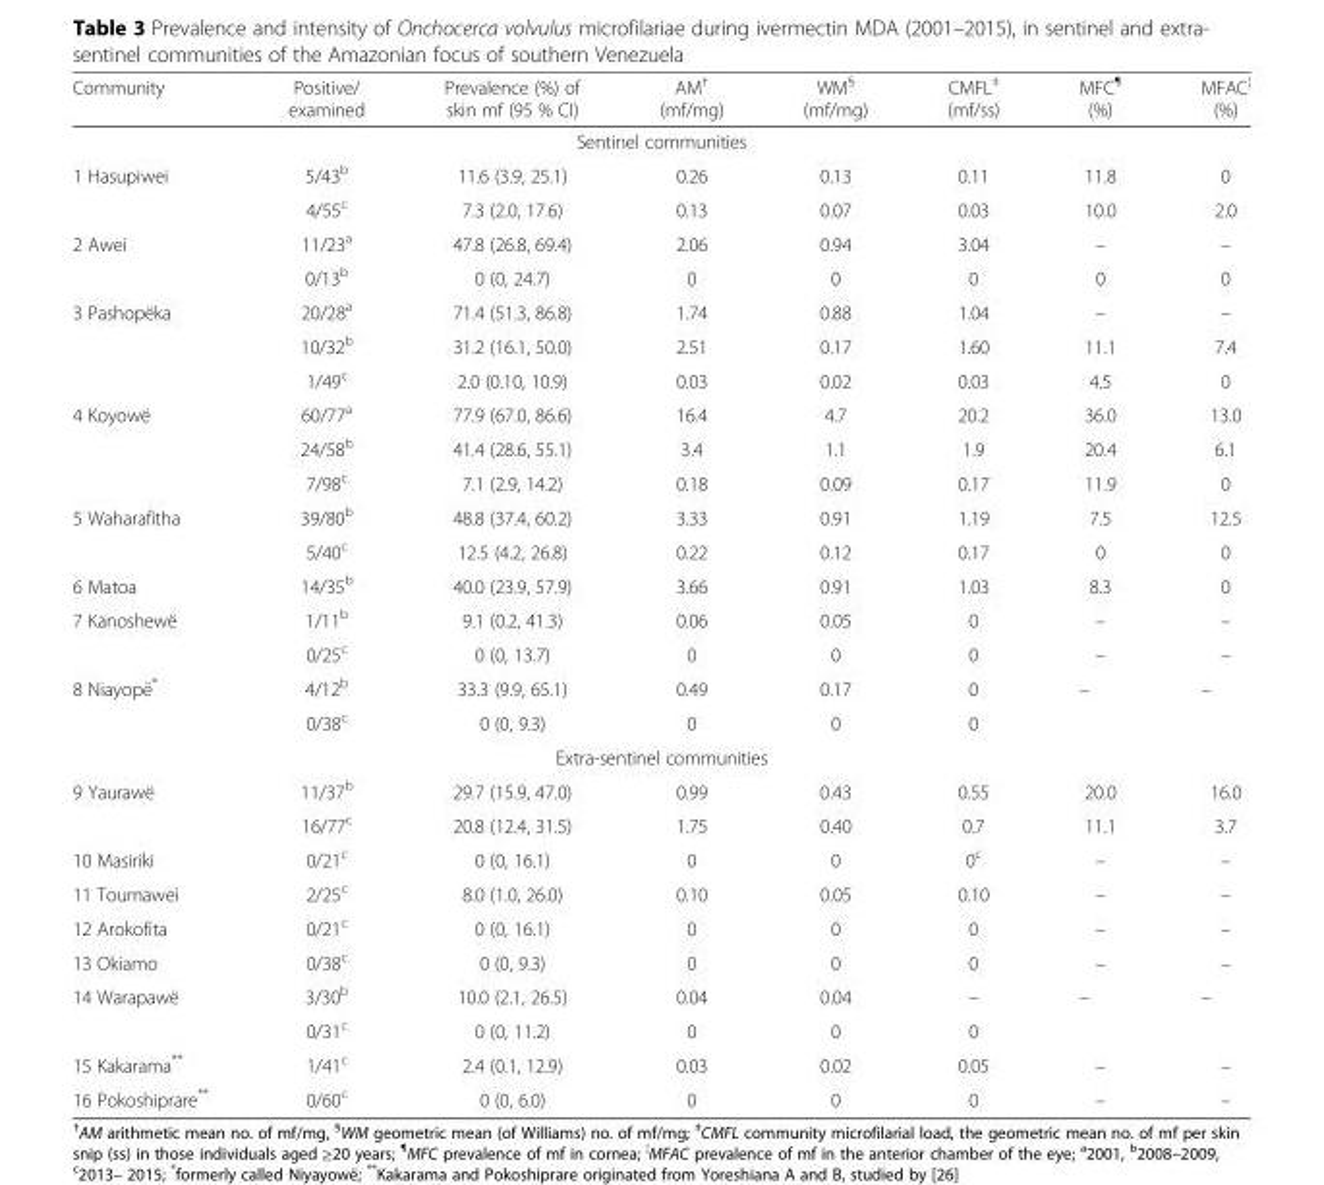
<table><thead><tr><td>Community</td><td>Positive/ examined</td><td>Prevalence (%) of skin mf (95 % CI)</td><td>AM<sup>†</sup> (mf/mg)</td><td>WM<sup>§</sup> (mf/mg)</td><td>CMFL<sup>‡</sup> (mf/ss)</td><td>MFC<sup>¶</sup> (%)</td><td>MFAC<sup>¦</sup> (%)</td></tr></thead><tbody><tr><td colspan="8">Sentinel communities</td></tr><tr><td rowspan="2">1 Hasupiwei</td><td>5/43<sup>b</sup></td><td>11.6 (3.9, 25.1)</td><td>0.26</td><td>0.13</td><td>0.11</td><td>11.8</td><td>0</td></tr><tr><td>4/55<sup>c</sup></td><td>7.3 (2.0, 17.6)</td><td>0.13</td><td>0.07</td><td>0.03</td><td>10.0</td><td>2.0</td></tr><tr><td rowspan="2">2 Awei</td><td>11/23<sup>a</sup></td><td>47.8 (26.8, 69.4)</td><td>2.06</td><td>0.94</td><td>3.04</td><td>–</td><td>–</td></tr><tr><td>0/13<sup>b</sup></td><td>0 (0, 24.7)</td><td>0</td><td>0</td><td>0</td><td>0</td><td>0</td></tr><tr><td rowspan="3">3 Pashopëka</td><td>20/28<sup>a</sup></td><td>71.4 (51.3, 86.8)</td><td>1.74</td><td>0.88</td><td>1.04</td><td>–</td><td>–</td></tr><tr><td>10/32<sup>b</sup></td><td>31.2 (16.1, 50.0)</td><td>2.51</td><td>0.17</td><td>1.60</td><td>11.1</td><td>7.4</td></tr><tr><td>1/49<sup>c</sup></td><td>2.0 (0.10, 10.9)</td><td>0.03</td><td>0.02</td><td>0.03</td><td>4.5</td><td>0</td></tr><tr><td rowspan="3">4 Koyowë</td><td>60/77<sup>a</sup></td><td>77.9 (67.0, 86.6)</td><td>16.4</td><td>4.7</td><td>20.2</td><td>36.0</td><td>13.0</td></tr><tr><td>24/58<sup>b</sup></td><td>41.4 (28.6, 55.1)</td><td>3.4</td><td>1.1</td><td>1.9</td><td>20.4</td><td>6.1</td></tr><tr><td>7/98<sup>c</sup></td><td>7.1 (2.9, 14.2)</td><td>0.18</td><td>0.09</td><td>0.17</td><td>11.9</td><td>0</td></tr><tr><td rowspan="2">5 Waharafitha</td><td>39/80<sup>b</sup></td><td>48.8 (37.4, 60.2)</td><td>3.33</td><td>0.91</td><td>1.19</td><td>7.5</td><td>12.5</td></tr><tr><td>5/40<sup>c</sup></td><td>12.5 (4.2, 26.8)</td><td>0.22</td><td>0.12</td><td>0.17</td><td>0</td><td>0</td></tr><tr><td>6 Matoa</td><td>14/35<sup>b</sup></td><td>40.0 (23.9, 57.9)</td><td>3.66</td><td>0.91</td><td>1.03</td><td>8.3</td><td>0</td></tr><tr><td rowspan="2">7 Kanoshewë</td><td>1/11<sup>b</sup></td><td>9.1 (0.2, 41.3)</td><td>0.06</td><td>0.05</td><td>0</td><td>–</td><td>–</td></tr><tr><td>0/25<sup>c</sup></td><td>0 (0, 13.7)</td><td>0</td><td>0</td><td>0</td><td>–</td><td>–</td></tr><tr><td rowspan="2">8 Niayopë*</td><td>4/12<sup>b</sup></td><td>33.3 (9.9, 65.1)</td><td>0.49</td><td>0.17</td><td>0</td><td rowspan="2">–</td><td rowspan="2">–</td></tr><tr><td>0/38<sup>c</sup></td><td>0 (0, 9.3)</td><td>0</td><td>0</td><td>0</td></tr><tr><td colspan="8">Extra-sentinel communities</td></tr><tr><td rowspan="2">9 Yaurawë</td><td>11/37<sup>b</sup></td><td>29.7 (15.9, 47.0)</td><td>0.99</td><td>0.43</td><td>0.55</td><td>20.0</td><td>16.0</td></tr><tr><td>16/77<sup>c</sup></td><td>20.8 (12.4, 31.5)</td><td>1.75</td><td>0.40</td><td>0.7</td><td>11.1</td><td>3.7</td></tr><tr><td>10 Masiriki</td><td>0/21<sup>c</sup></td><td>0 (0, 16.1)</td><td>0</td><td>0</td><td>0<sup>c</sup></td><td>–</td><td>–</td></tr><tr><td>11 Toumawei</td><td>2/25<sup>c</sup></td><td>8.0 (1.0, 26.0)</td><td>0.10</td><td>0.05</td><td>0.10</td><td>–</td><td>–</td></tr><tr><td>12 Arokofita</td><td>0/21<sup>c</sup></td><td>0 (0, 16.1)</td><td>0</td><td>0</td><td>0</td><td>–</td><td>–</td></tr><tr><td>13 Okiamo</td><td>0/38<sup>c</sup></td><td>0 (0, 9.3)</td><td>0</td><td>0</td><td>0</td><td>–</td><td>–</td></tr><tr><td rowspan="2">14 Warapawë</td><td>3/30<sup>b</sup></td><td>10.0 (2.1, 26.5)</td><td>0.04</td><td>0.04</td><td>–</td><td rowspan="2">–</td><td rowspan="2">–</td></tr><tr><td>0/31<sup>c</sup></td><td>0 (0, 11.2)</td><td>0</td><td>0</td><td>0</td></tr><tr><td>15 Kakarama**</td><td>1/41<sup>c</sup></td><td>2.4 (0.1, 12.9)</td><td>0.03</td><td>0.02</td><td>0.05</td><td>–</td><td>–</td></tr><tr><td>16 Pokoshiprare**</td><td>0/60<sup>c</sup></td><td>0 (0, 6.0)</td><td>0</td><td>0</td><td>0</td><td>–</td><td>–</td></tr></tbody></table>